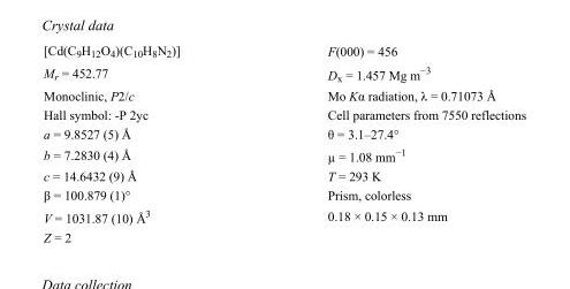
<table><tbody><tr><td>[Cd(C<sub>9</sub>H<sub>12</sub>O<sub>4</sub>)(C<sub>10</sub>H<sub>8</sub>N<sub>2</sub>)]</td><td>F(000) = 456</td></tr><tr><td>M<sub>r</sub> = 452.77</td><td>D<sub>x</sub> = 1.457 Mg m<sup>−3</sup></td></tr><tr><td>Monoclinic, P2/c</td><td>Mo Kα radiation, λ = 0.71073 Å</td></tr><tr><td>Hall symbol: -P 2yc</td><td>Cell parameters from 7550 reflections</td></tr><tr><td>a = 9.8527 (5) Å</td><td>θ = 3.1–27.4°</td></tr><tr><td>b = 7.2830 (4) Å</td><td>µ = 1.08 mm<sup>−1</sup></td></tr><tr><td>c = 14.6432 (9) Å</td><td>T = 293 K</td></tr><tr><td>β = 100.879 (1)°</td><td>Prism, colorless</td></tr><tr><td>V = 1031.87 (10) Å<sup>3</sup></td><td>0.18 × 0.15 × 0.13 mm</td></tr><tr><td>Z = 2</td><td></td></tr></tbody></table>